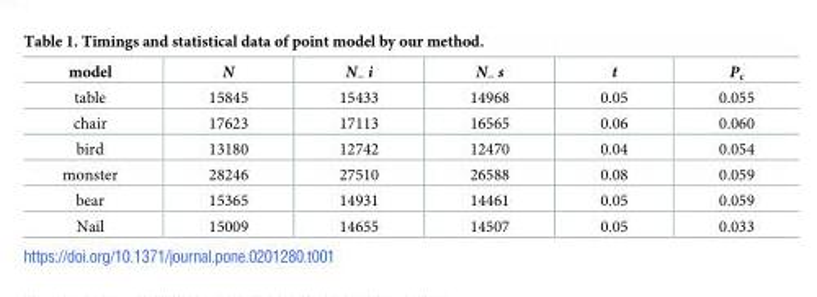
<table><thead><tr><td>model</td><td>N</td><td>N<sub>−</sub> i</td><td>N<sub>−</sub> s</td><td>t</td><td>P<sub>c</sub></td></tr></thead><tbody><tr><td>table</td><td>15845</td><td>15433</td><td>14968</td><td>0.05</td><td>0.055</td></tr><tr><td>chair</td><td>17623</td><td>17113</td><td>16565</td><td>0.06</td><td>0.060</td></tr><tr><td>bird</td><td>13180</td><td>12742</td><td>12470</td><td>0.04</td><td>0.054</td></tr><tr><td>monster</td><td>28246</td><td>27510</td><td>26588</td><td>0.08</td><td>0.059</td></tr><tr><td>bear</td><td>15365</td><td>14931</td><td>14461</td><td>0.05</td><td>0.059</td></tr><tr><td>Nail</td><td>15009</td><td>14655</td><td>14507</td><td>0.05</td><td>0.033</td></tr></tbody></table>